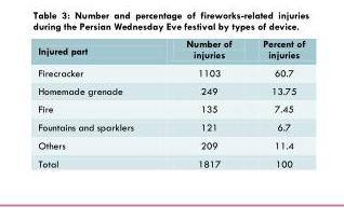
<table><thead><tr><td>Injured part</td><td>Number of injuries</td><td>Percent of injuries</td></tr></thead><tbody><tr><td>Firecracker</td><td>1103</td><td>60.7</td></tr><tr><td>Homemade grenade</td><td>249</td><td>13.75</td></tr><tr><td>Fire</td><td>135</td><td>7.45</td></tr><tr><td>Fountains and sparklers</td><td>121</td><td>6.7</td></tr><tr><td>Others</td><td>209</td><td>11.4</td></tr><tr><td>Total</td><td>1817</td><td>100</td></tr></tbody></table>